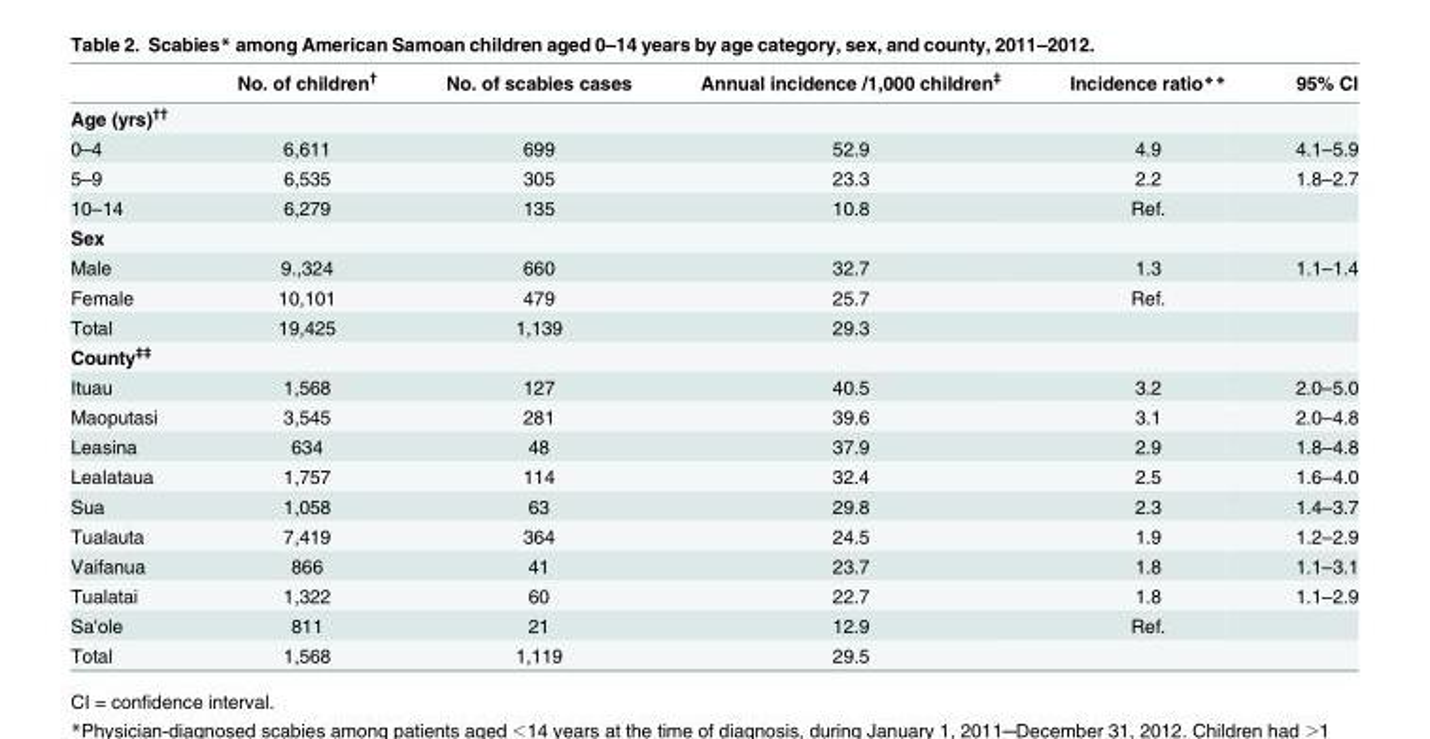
<table><thead><tr><td></td><td>No. of children<sup>†</sup></td><td>No. of scabies cases</td><td>Annual incidence /1,000 children<sup>‡</sup></td><td>Incidence ratio**</td><td>95% CI</td></tr></thead><tbody><tr><td colspan="6">Age (yrs)<sup>††</sup></td></tr><tr><td>0–4</td><td>6,611</td><td>699</td><td>52.9</td><td>4.9</td><td>4.1–5.9</td></tr><tr><td>5–9</td><td>6,535</td><td>305</td><td>23.3</td><td>2.2</td><td>1.8–2.7</td></tr><tr><td>10–14</td><td>6,279</td><td>135</td><td>10.8</td><td>Ref.</td><td></td></tr><tr><td colspan="6">Sex</td></tr><tr><td>Male</td><td>9.,324</td><td>660</td><td>32.7</td><td>1.3</td><td>1.1–1.4</td></tr><tr><td>Female</td><td>10,101</td><td>479</td><td>25.7</td><td>Ref.</td><td></td></tr><tr><td>Total</td><td>19,425</td><td>1,139</td><td>29.3</td><td></td><td></td></tr><tr><td colspan="6">County<sup>‡‡</sup></td></tr><tr><td>Ituau</td><td>1,568</td><td>127</td><td>40.5</td><td>3.2</td><td>2.0–5.0</td></tr><tr><td>Maoputasi</td><td>3,545</td><td>281</td><td>39.6</td><td>3.1</td><td>2.0–4.8</td></tr><tr><td>Leasina</td><td>634</td><td>48</td><td>37.9</td><td>2.9</td><td>1.8–4.8</td></tr><tr><td>Lealataua</td><td>1,757</td><td>114</td><td>32.4</td><td>2.5</td><td>1.6–4.0</td></tr><tr><td>Sua</td><td>1,058</td><td>63</td><td>29.8</td><td>2.3</td><td>1.4–3.7</td></tr><tr><td>Tualauta</td><td>7,419</td><td>364</td><td>24.5</td><td>1.9</td><td>1.2–2.9</td></tr><tr><td>Vaifanua</td><td>866</td><td>41</td><td>23.7</td><td>1.8</td><td>1.1–3.1</td></tr><tr><td>Tualatai</td><td>1,322</td><td>60</td><td>22.7</td><td>1.8</td><td>1.1–2.9</td></tr><tr><td>Sa&#x27;ole</td><td>811</td><td>21</td><td>12.9</td><td>Ref.</td><td></td></tr><tr><td>Total</td><td>1,568</td><td>1,119</td><td>29.5</td><td></td><td></td></tr></tbody></table>